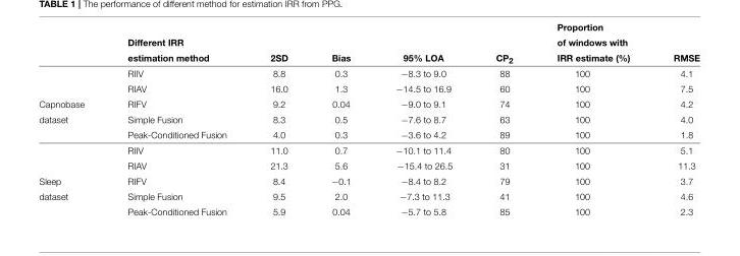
<table><thead><tr><td></td><td>Different IRR estimation method</td><td>2SD</td><td>Bias</td><td>95% LOA</td><td>CP<sub>2</sub></td><td>of windows with IRR estimate (%)</td><td>RMSE</td></tr></thead><tbody><tr><td></td><td>RIIV</td><td>8.8</td><td>0.3</td><td>−8.3 to 9.0</td><td>88</td><td>100</td><td>4.1</td></tr><tr><td></td><td>RIAV</td><td>16.0</td><td>1.3</td><td>−14.5 to 16.9</td><td>60</td><td>100</td><td>7.5</td></tr><tr><td rowspan="5">Capnobase dataset</td><td>RIFV</td><td>9.2</td><td>0.04</td><td>−9.0 to 9.1</td><td>74</td><td>100</td><td>4.2</td></tr><tr><td>Simple Fusion</td><td>8.3</td><td>0.5</td><td>−7.6 to 8.7</td><td>63</td><td>100</td><td>4.0</td></tr><tr><td>Peak-Conditioned Fusion</td><td>4.0</td><td>0.3</td><td>−3.6 to 4.2</td><td>89</td><td>100</td><td>1.8</td></tr><tr><td>RIIV</td><td>11.0</td><td>0.7</td><td>−10.1 to 11.4</td><td>80</td><td>100</td><td>5.1</td></tr><tr><td>RIAV</td><td>21.3</td><td>5.6</td><td>−15.4 to 26.5</td><td>31</td><td>100</td><td>11.3</td></tr><tr><td rowspan="3">Sleep dataset</td><td>RIFV</td><td>8.4</td><td>−0.1</td><td>−8.4 to 8.2</td><td>79</td><td>100</td><td>3.7</td></tr><tr><td>Simple Fusion</td><td>9.5</td><td>2.0</td><td>−7.3 to 11.3</td><td>41</td><td>100</td><td>4.6</td></tr><tr><td>Peak-Conditioned Fusion</td><td>5.9</td><td>0.04</td><td>−5.7 to 5.8</td><td>85</td><td>100</td><td>2.3</td></tr></tbody></table>